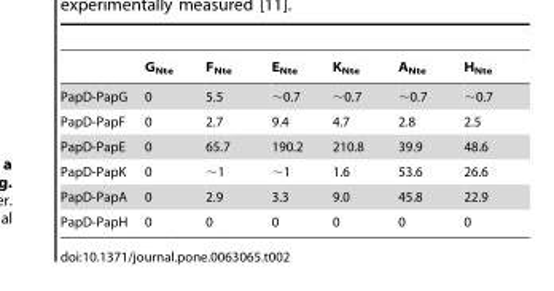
<table><thead><tr><td></td><td>G<sub>Nte</sub></td><td>F<sub>Nte</sub></td><td>E<sub>Nte</sub></td><td>K<sub>Nte</sub></td><td>A<sub>Nte</sub></td><td>H<sub>Nte</sub></td></tr></thead><tbody><tr><td>PapD-PapG</td><td>0</td><td>5.5</td><td>∼0.7</td><td>∼0.7</td><td>∼0.7</td><td>∼0.7</td></tr><tr><td>PapD-PapF</td><td>0</td><td>2.7</td><td>9.4</td><td>4.7</td><td>2.8</td><td>2.5</td></tr><tr><td>PapD-PapE</td><td>0</td><td>65.7</td><td>190.2</td><td>210.8</td><td>39.9</td><td>48.6</td></tr><tr><td>PapD-PapK</td><td>0</td><td>∼1</td><td>∼1</td><td>1.6</td><td>53.6</td><td>26.6</td></tr><tr><td>PapD-PapA</td><td>0</td><td>2.9</td><td>3.3</td><td>9.0</td><td>45.8</td><td>22.9</td></tr><tr><td>PapD-PapH</td><td>0</td><td>0</td><td>0</td><td>0</td><td>0</td><td>0</td></tr></tbody></table>